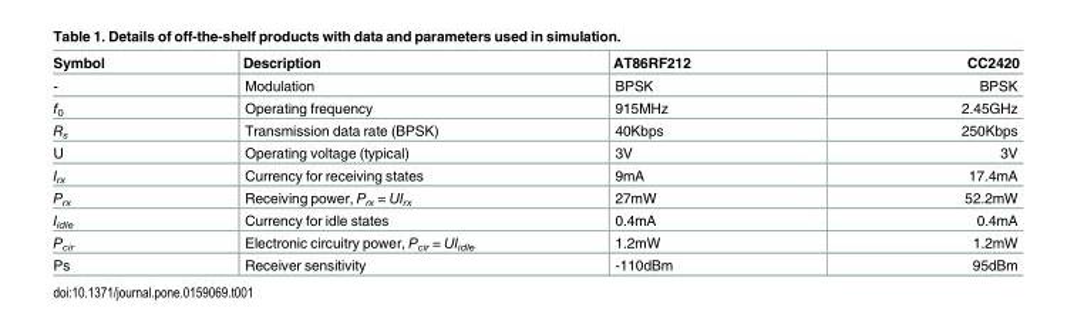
<table><thead><tr><td>Symbol</td><td>Description</td><td>AT86RF212</td><td>CC2420</td></tr></thead><tbody><tr><td>-</td><td>Modulation</td><td>BPSK</td><td>BPSK</td></tr><tr><td>f<sub>0</sub></td><td>Operating frequency</td><td>915MHz</td><td>2.45GHz</td></tr><tr><td>R<sub>s</sub></td><td>Transmission data rate (BPSK)</td><td>40Kbps</td><td>250Kbps</td></tr><tr><td>U</td><td>Operating voltage (typical)</td><td>3V</td><td>3V</td></tr><tr><td>I<sub>rx</sub></td><td>Currency for receiving states</td><td>9mA</td><td>17.4mA</td></tr><tr><td>P<sub>rx</sub></td><td>Receiving power, P<sub>rx</sub> = UI<sub>rx</sub></td><td>27mW</td><td>52.2mW</td></tr><tr><td>I<sub>idle</sub></td><td>Currency for idle states</td><td>0.4mA</td><td>0.4mA</td></tr><tr><td>P<sub>cir</sub></td><td>Electronic circuitry power, P<sub>cir</sub> = UI<sub>idle</sub></td><td>1.2mW</td><td>1.2mW</td></tr><tr><td>Ps</td><td>Receiver sensitivity</td><td>-110dBm</td><td>95dBm</td></tr></tbody></table>